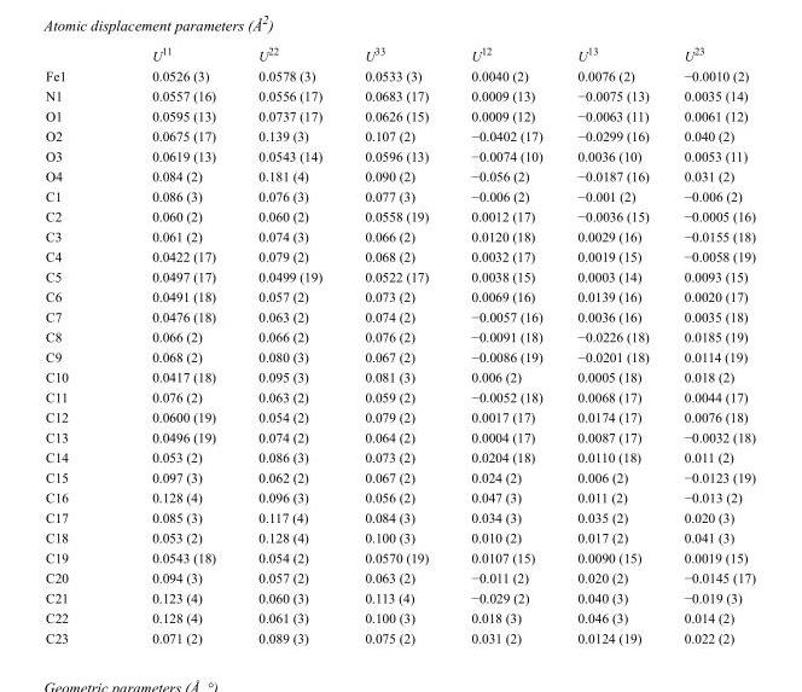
<table><thead><tr><td></td><td>U<sup>11</sup></td><td>U<sup>22</sup></td><td>U<sup>33</sup></td><td>U<sup>12</sup></td><td>U<sup>13</sup></td><td>U<sup>23</sup></td></tr></thead><tbody><tr><td>Fe1</td><td>0.0526 (3)</td><td>0.0578 (3)</td><td>0.0533 (3)</td><td>0.0040 (2)</td><td>0.0076 (2)</td><td>−0.0010 (2)</td></tr><tr><td>N1</td><td>0.0557 (16)</td><td>0.0556 (17)</td><td>0.0683 (17)</td><td>0.0009 (13)</td><td>−0.0075 (13)</td><td>0.0035 (14)</td></tr><tr><td>O1</td><td>0.0595 (13)</td><td>0.0737 (17)</td><td>0.0626 (15)</td><td>0.0009 (12)</td><td>−0.0063 (11)</td><td>0.0061 (12)</td></tr><tr><td>O2</td><td>0.0675 (17)</td><td>0.139 (3)</td><td>0.107 (2)</td><td>−0.0402 (17)</td><td>−0.0299 (16)</td><td>0.040 (2)</td></tr><tr><td>O3</td><td>0.0619 (13)</td><td>0.0543 (14)</td><td>0.0596 (13)</td><td>−0.0074 (10)</td><td>0.0036 (10)</td><td>0.0053 (11)</td></tr><tr><td>O4</td><td>0.084 (2)</td><td>0.181 (4)</td><td>0.090 (2)</td><td>−0.056 (2)</td><td>−0.0187 (16)</td><td>0.031 (2)</td></tr><tr><td>C1</td><td>0.086 (3)</td><td>0.076 (3)</td><td>0.077 (3)</td><td>−0.006 (2)</td><td>−0.001 (2)</td><td>−0.006 (2)</td></tr><tr><td>C2</td><td>0.060 (2)</td><td>0.060 (2)</td><td>0.0558 (19)</td><td>0.0012 (17)</td><td>−0.0036 (15)</td><td>−0.0005 (16)</td></tr><tr><td>C3</td><td>0.061 (2)</td><td>0.074 (3)</td><td>0.066 (2)</td><td>0.0120 (18)</td><td>0.0029 (16)</td><td>−0.0155 (18)</td></tr><tr><td>C4</td><td>0.0422 (17)</td><td>0.079 (2)</td><td>0.068 (2)</td><td>0.0032 (17)</td><td>0.0019 (15)</td><td>−0.0058 (19)</td></tr><tr><td>C5</td><td>0.0497 (17)</td><td>0.0499 (19)</td><td>0.0522 (17)</td><td>0.0038 (15)</td><td>0.0003 (14)</td><td>0.0093 (15)</td></tr><tr><td>C6</td><td>0.0491 (18)</td><td>0.057 (2)</td><td>0.073 (2)</td><td>0.0069 (16)</td><td>0.0139 (16)</td><td>0.0020 (17)</td></tr><tr><td>C7</td><td>0.0476 (18)</td><td>0.063 (2)</td><td>0.074 (2)</td><td>−0.0057 (16)</td><td>0.0036 (16)</td><td>0.0035 (18)</td></tr><tr><td>C8</td><td>0.066 (2)</td><td>0.066 (2)</td><td>0.076 (2)</td><td>−0.0091 (18)</td><td>−0.0226 (18)</td><td>0.0185 (19)</td></tr><tr><td>C9</td><td>0.068 (2)</td><td>0.080 (3)</td><td>0.067 (2)</td><td>−0.0086 (19)</td><td>−0.0201 (18)</td><td>0.0114 (19)</td></tr><tr><td>C10</td><td>0.0417 (18)</td><td>0.095 (3)</td><td>0.081 (3)</td><td>0.006 (2)</td><td>0.0005 (18)</td><td>0.018 (2)</td></tr><tr><td>C11</td><td>0.076 (2)</td><td>0.063 (2)</td><td>0.059 (2)</td><td>−0.0052 (18)</td><td>0.0068 (17)</td><td>0.0044 (17)</td></tr><tr><td>C12</td><td>0.0600 (19)</td><td>0.054 (2)</td><td>0.079 (2)</td><td>0.0017 (17)</td><td>0.0174 (17)</td><td>0.0076 (18)</td></tr><tr><td>C13</td><td>0.0496 (19)</td><td>0.074 (2)</td><td>0.064 (2)</td><td>0.0004 (17)</td><td>0.0087 (17)</td><td>−0.0032 (18)</td></tr><tr><td>C14</td><td>0.053 (2)</td><td>0.086 (3)</td><td>0.073 (2)</td><td>0.0204 (18)</td><td>0.0110 (18)</td><td>0.011 (2)</td></tr><tr><td>C15</td><td>0.097 (3)</td><td>0.062 (2)</td><td>0.067 (2)</td><td>0.024 (2)</td><td>0.006 (2)</td><td>−0.0123 (19)</td></tr><tr><td>C16</td><td>0.128 (4)</td><td>0.096 (3)</td><td>0.056 (2)</td><td>0.047 (3)</td><td>0.011 (2)</td><td>−0.013 (2)</td></tr><tr><td>C17</td><td>0.085 (3)</td><td>0.117 (4)</td><td>0.084 (3)</td><td>0.034 (3)</td><td>0.035 (2)</td><td>0.020 (3)</td></tr><tr><td>C18</td><td>0.053 (2)</td><td>0.128 (4)</td><td>0.100 (3)</td><td>0.010 (2)</td><td>0.017 (2)</td><td>0.041 (3)</td></tr><tr><td>C19</td><td>0.0543 (18)</td><td>0.054 (2)</td><td>0.0570 (19)</td><td>0.0107 (15)</td><td>0.0090 (15)</td><td>0.0019 (15)</td></tr><tr><td>C20</td><td>0.094 (3)</td><td>0.057 (2)</td><td>0.063 (2)</td><td>−0.011 (2)</td><td>0.020 (2)</td><td>−0.0145 (17)</td></tr><tr><td>C21</td><td>0.123 (4)</td><td>0.060 (3)</td><td>0.113 (4)</td><td>−0.029 (2)</td><td>0.040 (3)</td><td>−0.019 (3)</td></tr><tr><td>C22</td><td>0.128 (4)</td><td>0.061 (3)</td><td>0.100 (3)</td><td>0.018 (3)</td><td>0.046 (3)</td><td>0.014 (2)</td></tr><tr><td>C23</td><td>0.071 (2)</td><td>0.089 (3)</td><td>0.075 (2)</td><td>0.031 (2)</td><td>0.0124 (19)</td><td>0.022 (2)</td></tr></tbody></table>